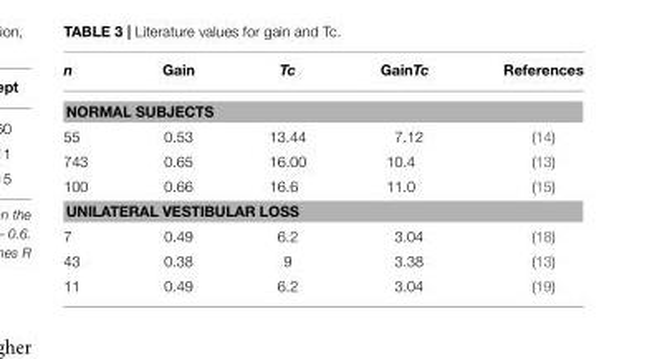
<table><thead><tr><td>n</td><td>Gain</td><td>Tc</td><td>GainTc</td><td>References</td></tr></thead><tbody><tr><td colspan="5">NORMAL SUBJECTS</td></tr><tr><td>55</td><td>0.53</td><td>13.44</td><td>7.12</td><td>(14)</td></tr><tr><td>743</td><td>0.65</td><td>16.00</td><td>10.4</td><td>(13)</td></tr><tr><td>100</td><td>0.66</td><td>16.6</td><td>11.0</td><td>(15)</td></tr><tr><td colspan="5">UNILATERAL VESTIBULAR LOSS</td></tr><tr><td>7</td><td>0.49</td><td>6.2</td><td>3.04</td><td>(18)</td></tr><tr><td>43</td><td>0.38</td><td>9</td><td>3.38</td><td>(13)</td></tr><tr><td>11</td><td>0.49</td><td>6.2</td><td>3.04</td><td>(19)</td></tr></tbody></table>